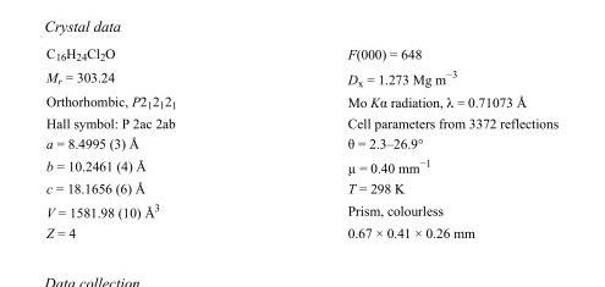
<table><tbody><tr><td>C<sub>16</sub>H<sub>24</sub>Cl<sub>2</sub>O</td><td>F(000) = 648</td></tr><tr><td>M<sub>r</sub> = 303.24</td><td>D<sub>x</sub> = 1.273 Mg m<sup>−3</sup></td></tr><tr><td>Orthorhombic, P2<sub>1</sub>2<sub>1</sub>2<sub>1</sub></td><td>Mo Kα radiation, λ = 0.71073 Å</td></tr><tr><td>Hall symbol: P 2ac 2ab</td><td>Cell parameters from 3372 reflections</td></tr><tr><td>a = 8.4995 (3) Å</td><td>θ = 2.3–26.9°</td></tr><tr><td>b = 10.2461 (4) Å</td><td>µ = 0.40 mm<sup>−1</sup></td></tr><tr><td>c = 18.1656 (6) Å</td><td>T = 298 K</td></tr><tr><td>V = 1581.98 (10) Å<sup>3</sup></td><td>Prism, colourless</td></tr><tr><td>Z = 4</td><td>0.67 × 0.41 × 0.26 mm</td></tr></tbody></table>